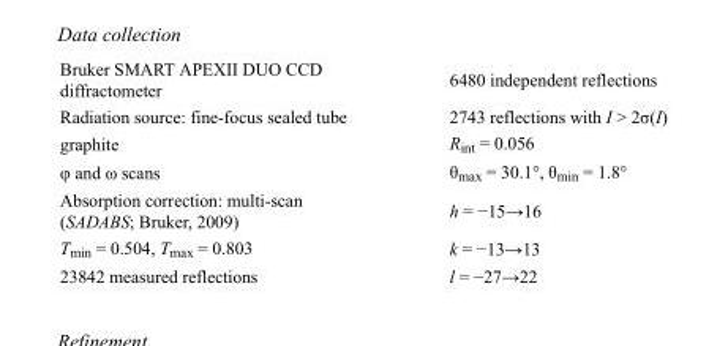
<table><tbody><tr><td>Bruker SMART APEXII DUO CCD diffractometer</td><td>6480 independent reflections</td></tr><tr><td>Radiation source: fine-focus sealed tube</td><td>2743 reflections with I &gt; 2σ(I)</td></tr><tr><td>graphite</td><td>R<sub>int</sub> = 0.056</td></tr><tr><td>φ and ω scans</td><td>θ<sub>max</sub> = 30.1°, θ<sub>min</sub> = 1.8°</td></tr><tr><td>Absorption correction: multi-scan (SADABS; Bruker, 2009)</td><td>h = −15→16</td></tr><tr><td>T<sub>min</sub> = 0.504, T<sub>max</sub> = 0.803</td><td>k = −13→13</td></tr><tr><td>23842 measured reflections</td><td>l = −27→22</td></tr></tbody></table>